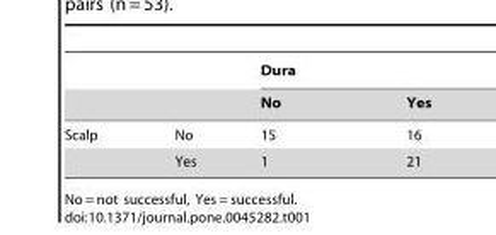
<table><thead><tr><td rowspan="2"></td><td rowspan="2"></td><td colspan="2">Dura</td></tr><tr><td>No</td><td>Yes</td></tr></thead><tbody><tr><td rowspan="2">Scalp</td><td>No</td><td>15</td><td>16</td></tr><tr><td>Yes</td><td>1</td><td>21</td></tr></tbody></table>